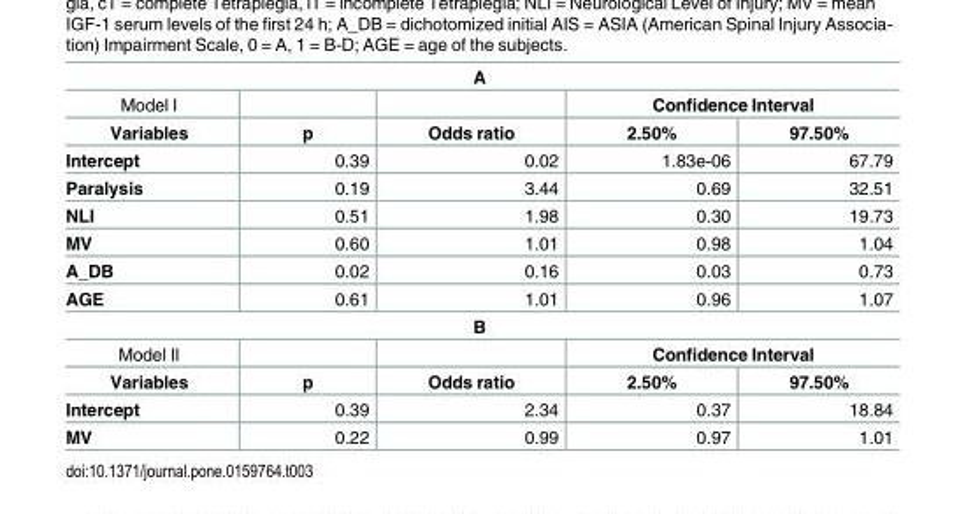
<table><tbody><tr><td colspan="5">A</td></tr><tr><td>Model I</td><td></td><td></td><td colspan="2">Confidence Interval</td></tr><tr><td>Variables</td><td>p</td><td>Odds ratio</td><td>2.50%</td><td>97.50%</td></tr><tr><td>Intercept</td><td>0.39</td><td>0.02</td><td>1.83e-06</td><td>67.79</td></tr><tr><td>Paralysis</td><td>0.19</td><td>3.44</td><td>0.69</td><td>32.51</td></tr><tr><td>NLI</td><td>0.51</td><td>1.98</td><td>0.30</td><td>19.73</td></tr><tr><td>MV</td><td>0.60</td><td>1.01</td><td>0.98</td><td>1.04</td></tr><tr><td>A_DB</td><td>0.02</td><td>0.16</td><td>0.03</td><td>0.73</td></tr><tr><td>AGE</td><td>0.61</td><td>1.01</td><td>0.96</td><td>1.07</td></tr><tr><td colspan="5">B</td></tr><tr><td>Model II</td><td></td><td></td><td colspan="2">Confidence Interval</td></tr><tr><td>Variables</td><td>p</td><td>Odds ratio</td><td>2.50%</td><td>97.50%</td></tr><tr><td>Intercept</td><td>0.39</td><td>2.34</td><td>0.37</td><td>18.84</td></tr><tr><td>MV</td><td>0.22</td><td>0.99</td><td>0.97</td><td>1.01</td></tr></tbody></table>